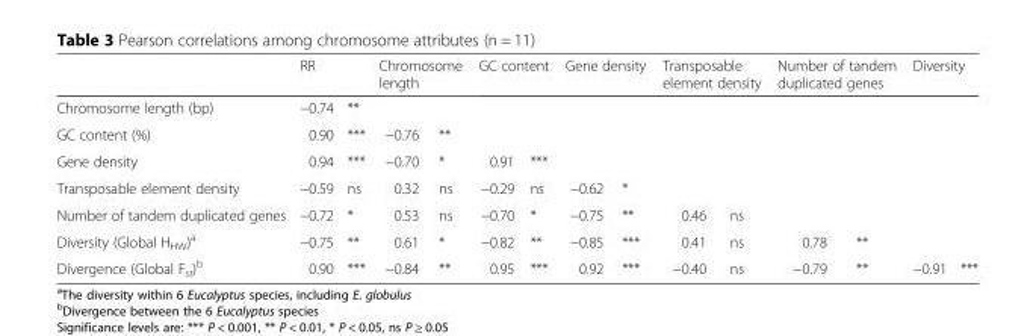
<table><thead><tr><td rowspan="2">Chromosome length (bp)</td><td colspan="2">RR</td><td colspan="2">Chromosome length</td><td colspan="2">GC content</td><td colspan="2">Gene density</td><td colspan="2">Transposable element density</td><td colspan="2">Number of tandem duplicated genes</td><td colspan="2">Diversity</td></tr><tr><td>−0.74</td><td>**</td><td></td><td></td><td></td><td></td><td></td><td></td><td></td><td></td><td></td><td></td><td></td><td></td></tr></thead><tbody><tr><td>GC content (%)</td><td>0.90</td><td>***</td><td>−0.76</td><td>**</td><td></td><td></td><td></td><td></td><td></td><td></td><td></td><td></td><td></td><td></td></tr><tr><td>Gene density</td><td>0.94</td><td>***</td><td>−0.70</td><td>*</td><td>0.91</td><td>***</td><td></td><td></td><td></td><td></td><td></td><td></td><td></td><td></td></tr><tr><td>Transposable element density</td><td>−0.59</td><td>ns</td><td>0.32</td><td>ns</td><td>−0.29</td><td>ns</td><td>−0.62</td><td>*</td><td></td><td></td><td></td><td></td><td></td><td></td></tr><tr><td>Number of tandem duplicated genes</td><td>−0.72</td><td>*</td><td>0.53</td><td>ns</td><td>−0.70</td><td>*</td><td>−0.75</td><td>**</td><td>0.46</td><td>ns</td><td></td><td></td><td></td><td></td></tr><tr><td>Diversity (Global H<sub>HW</sub>)<sup>a</sup></td><td>−0.75</td><td>**</td><td>0.61</td><td>*</td><td>−0.82</td><td>**</td><td>−0.85</td><td>***</td><td>0.41</td><td>ns</td><td>0.78</td><td>**</td><td></td><td></td></tr><tr><td>Divergence (Global F<sub>st</sub>)<sup>b</sup></td><td>0.90</td><td>***</td><td>−0.84</td><td>**</td><td>0.95</td><td>***</td><td>0.92</td><td>***</td><td>−0.40</td><td>ns</td><td>−0.79</td><td>**</td><td>−0.91</td><td>***</td></tr></tbody></table>